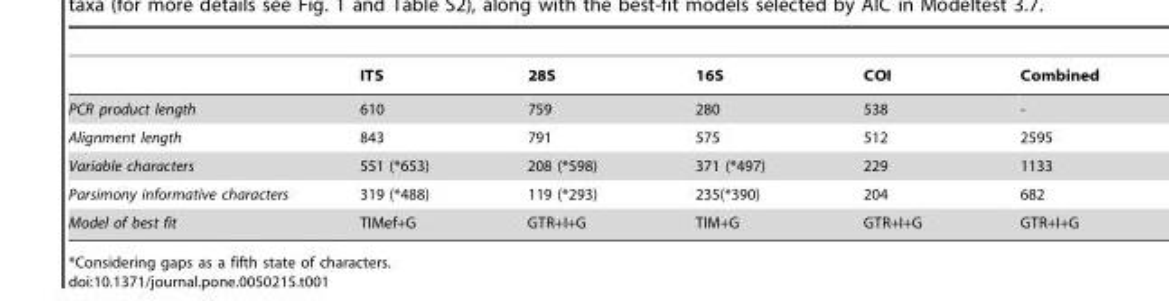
<table><thead><tr><td></td><td>ITS</td><td>28S</td><td>16S</td><td>COI</td><td>Combined</td></tr></thead><tbody><tr><td>PCR product length</td><td>610</td><td>759</td><td>280</td><td>538</td><td>-</td></tr><tr><td>Alignment length</td><td>843</td><td>791</td><td>575</td><td>512</td><td>2595</td></tr><tr><td>Variable characters</td><td>551 (*653)</td><td>208 (*598)</td><td>371 (*497)</td><td>229</td><td>1133</td></tr><tr><td>Parsimony informative characters</td><td>319 (*488)</td><td>119 (*293)</td><td>235(*390)</td><td>204</td><td>682</td></tr><tr><td>Model of best fit</td><td>TIMef+G</td><td>GTR+I+G</td><td>TIM+G</td><td>GTR+I+G</td><td>GTR+I+G</td></tr></tbody></table>